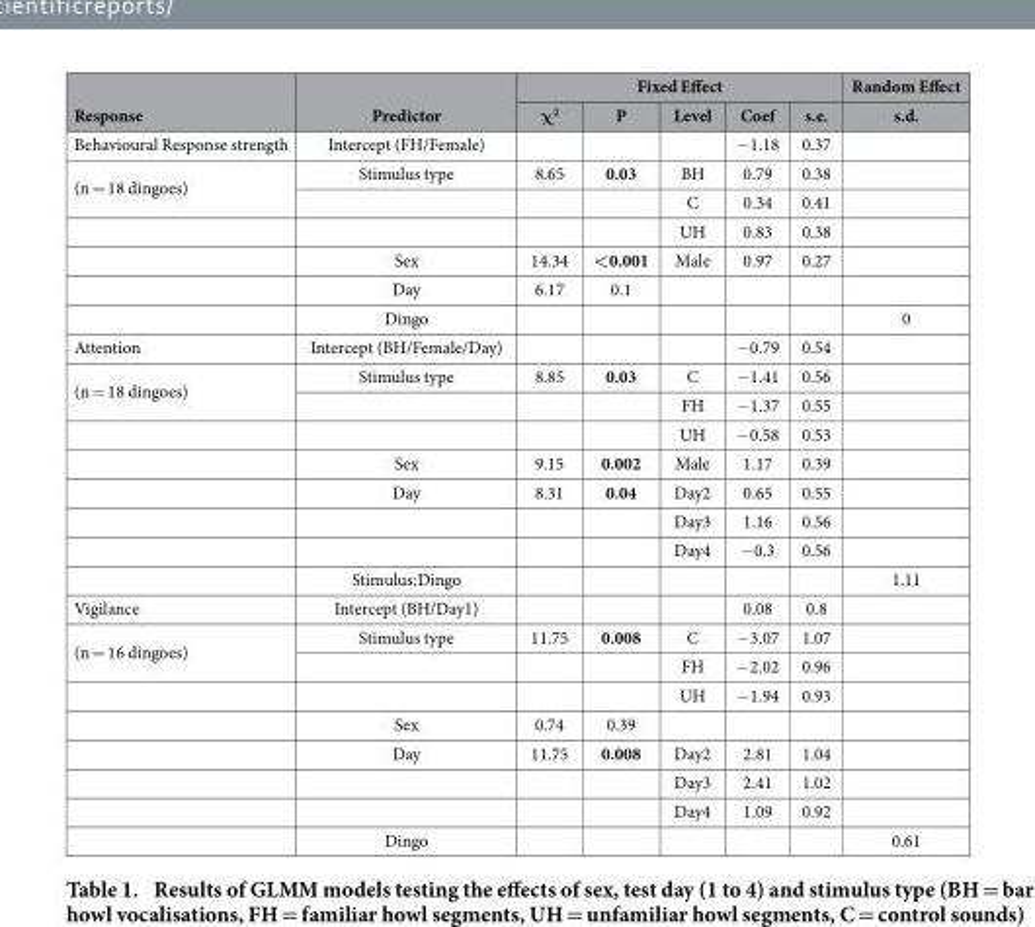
<table><thead><tr><td rowspan="2">Response</td><td rowspan="2">Predictor</td><td colspan="5">Fixed Effect</td><td rowspan="2">Random Effect s.d.</td></tr><tr><td>χ<sup>2</sup></td><td>P</td><td>Level</td><td>Coef</td><td>s.e.</td></tr></thead><tbody><tr><td>Behavioural Response strength</td><td>Intercept (FH/Female)</td><td></td><td></td><td></td><td>− 1.18</td><td>0.37</td><td></td></tr><tr><td rowspan="6">(n = 18 dingoes)</td><td>Stimulus type</td><td>8.65</td><td>0.03</td><td>BH</td><td>0.79</td><td>0.38</td><td></td></tr><tr><td></td><td></td><td></td><td>C</td><td>0.34</td><td>0.41</td><td></td></tr><tr><td></td><td></td><td></td><td>UH</td><td>0.83</td><td>0.38</td><td></td></tr><tr><td>Sex</td><td>14.34</td><td>&lt; 0.001</td><td>Male</td><td>0.97</td><td>0.27</td><td></td></tr><tr><td>Day</td><td>6.17</td><td>0.1</td><td></td><td></td><td></td><td></td></tr><tr><td>Dingo</td><td></td><td></td><td></td><td></td><td></td><td>0</td></tr><tr><td>Attention</td><td>Intercept (BH/Female/Day)</td><td></td><td></td><td></td><td>− 0.79</td><td>0.54</td><td></td></tr><tr><td rowspan="8">(n = 18 dingoes)</td><td>Stimulus type</td><td>8.85</td><td>0.03</td><td>C</td><td>− 1.41</td><td>0.56</td><td></td></tr><tr><td></td><td></td><td></td><td>FH</td><td>− 1.37</td><td>0.55</td><td></td></tr><tr><td></td><td></td><td></td><td>UH</td><td>− 0.58</td><td>0.53</td><td></td></tr><tr><td>Sex</td><td>9.15</td><td>0.002</td><td>Male</td><td>1.17</td><td>0.39</td><td></td></tr><tr><td>Day</td><td>8.31</td><td>0.04</td><td>Day2</td><td>0.65</td><td>0.55</td><td></td></tr><tr><td></td><td></td><td></td><td>Day3</td><td>1.16</td><td>0.56</td><td></td></tr><tr><td></td><td></td><td></td><td>Day4</td><td>− 0.3</td><td>0.56</td><td></td></tr><tr><td>Stimulus:Dingo</td><td></td><td></td><td></td><td></td><td></td><td>1.11</td></tr><tr><td>Vigilance</td><td>Intercept (BH/Day1)</td><td></td><td></td><td></td><td>0.08</td><td>0.8</td><td></td></tr><tr><td rowspan="8">(n = 16 dingoes)</td><td>Stimulus type</td><td>11.75</td><td>0.008</td><td>C</td><td>− 3.07</td><td>1.07</td><td></td></tr><tr><td></td><td></td><td></td><td>FH</td><td>− 2.02</td><td>0.96</td><td></td></tr><tr><td></td><td></td><td></td><td>UH</td><td>− 1.94</td><td>0.93</td><td></td></tr><tr><td>Sex</td><td>0.74</td><td>0.39</td><td></td><td></td><td></td><td></td></tr><tr><td>Day</td><td>11.75</td><td>0.008</td><td>Day2</td><td>2.81</td><td>1.04</td><td></td></tr><tr><td></td><td></td><td></td><td>Day3</td><td>2.41</td><td>1.02</td><td></td></tr><tr><td></td><td></td><td></td><td>Day4</td><td>1.09</td><td>0.92</td><td></td></tr><tr><td>Dingo</td><td></td><td></td><td></td><td></td><td></td><td>0.61</td></tr></tbody></table>